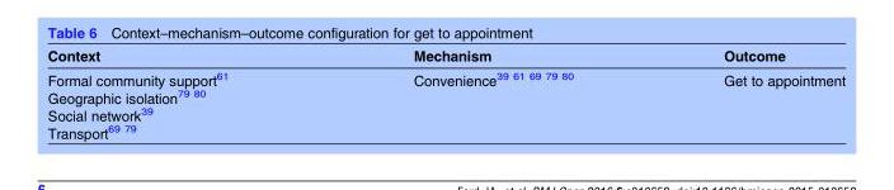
<table><thead><tr><td>Context</td><td>Mechanism</td><td>Outcome</td></tr></thead><tbody><tr><td>Formal community support<sup>61</sup> Geographic isolation<sup>79 80</sup> Social network<sup>39</sup> Transport<sup>69 79</sup></td><td>Convenience<sup>39 61 69 79 80</sup></td><td>Get to appointment</td></tr></tbody></table>